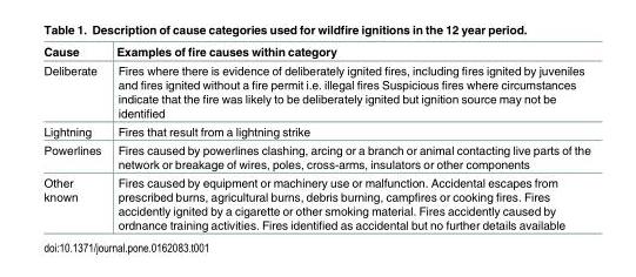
<table><thead><tr><td>Cause</td><td>Examples of fire causes within category</td></tr></thead><tbody><tr><td>Deliberate</td><td>Fires where there is evidence of deliberately ignited fires, including fires ignited by juveniles and fires ignited without a fire permit i.e. illegal fires Suspicious fires where circumstances indicate that the fire was likely to be deliberately ignited but ignition source may not be identified</td></tr><tr><td>Lightning</td><td>Fires that result from a lightning strike</td></tr><tr><td>Powerlines</td><td>Fires caused by powerlines clashing, arcing or a branch or animal contacting live parts of the network or breakage of wires, poles, cross-arms, insulators or other components</td></tr><tr><td>Other known</td><td>Fires caused by equipment or machinery use or malfunction. Accidental escapes from prescribed burns, agricultural burns, debris burning, campfires or cooking fires. Fires accidently ignited by a cigarette or other smoking material. Fires accidently caused by ordnance training activities. Fires identified as accidental but no further details available</td></tr></tbody></table>